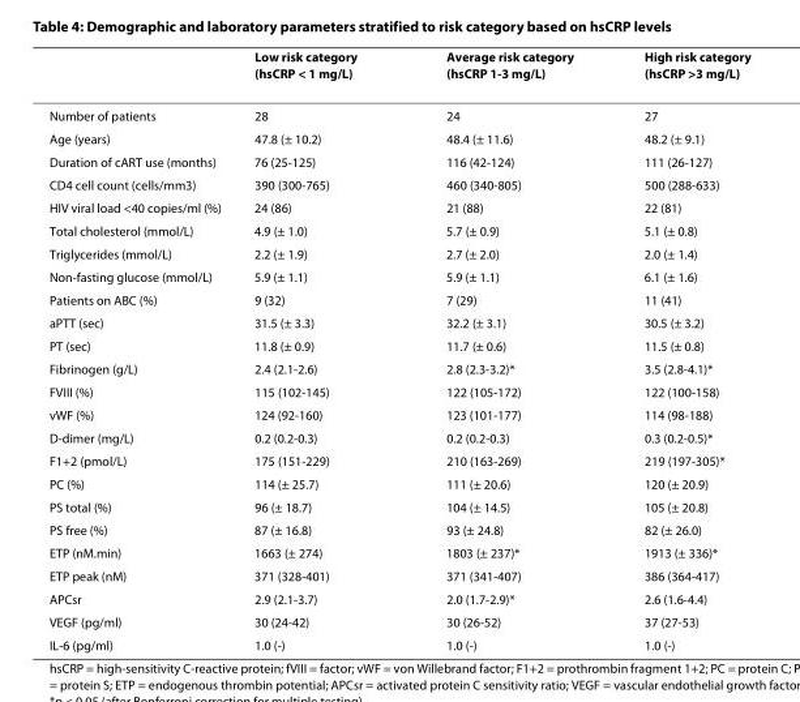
<table><thead><tr><td></td><td>Low risk category (hsCRP &lt; 1 mg/L)</td><td>Average risk category (hsCRP 1-3 mg/L)</td><td>High risk category (hsCRP &gt;3 mg/L)</td></tr></thead><tbody><tr><td>Number of patients</td><td>28</td><td>24</td><td>27</td></tr><tr><td>Age (years)</td><td>47.8 (± 10.2)</td><td>48.4 (± 11.6)</td><td>48.2 (± 9.1)</td></tr><tr><td>Duration of cART use (months)</td><td>76 (25-125)</td><td>116 (42-124)</td><td>111 (26-127)</td></tr><tr><td>CD4 cell count (cells/mm3)</td><td>390 (300-765)</td><td>460 (340-805)</td><td>500 (288-633)</td></tr><tr><td>HIV viral load &lt;40 copies/ml (%)</td><td>24 (86)</td><td>21 (88)</td><td>22 (81)</td></tr><tr><td>Total cholesterol (mmol/L)</td><td>4.9 (± 1.0)</td><td>5.7 (± 0.9)</td><td>5.1 (± 0.8)</td></tr><tr><td>Triglycerides (mmol/L)</td><td>2.2 (± 1.9)</td><td>2.7 (± 2.0)</td><td>2.0 (± 1.4)</td></tr><tr><td>Non-fasting glucose (mmol/L)</td><td>5.9 (± 1.1)</td><td>5.9 (± 1.1)</td><td>6.1 (± 1.6)</td></tr><tr><td>Patients on ABC (%)</td><td>9 (32)</td><td>7 (29)</td><td>11 (41)</td></tr><tr><td>aPTT (sec)</td><td>31.5 (± 3.3)</td><td>32.2 (± 3.1)</td><td>30.5 (± 3.2)</td></tr><tr><td>PT (sec)</td><td>11.8 (± 0.9)</td><td>11.7 (± 0.6)</td><td>11.5 (± 0.8)</td></tr><tr><td>Fibrinogen (g/L)</td><td>2.4 (2.1-2.6)</td><td>2.8 (2.3-3.2)*</td><td>3.5 (2.8-4.1)*</td></tr><tr><td>FVIII (%)</td><td>115 (102-145)</td><td>122 (105-172)</td><td>122 (100-158)</td></tr><tr><td>vWF (%)</td><td>124 (92-160)</td><td>123 (101-177)</td><td>114 (98-188)</td></tr><tr><td>D-dimer (mg/L)</td><td>0.2 (0.2-0.3)</td><td>0.2 (0.2-0.3)</td><td>0.3 (0.2-0.5)*</td></tr><tr><td>F1+2 (pmol/L)</td><td>175 (151-229)</td><td>210 (163-269)</td><td>219 (197-305)*</td></tr><tr><td>PC (%)</td><td>114 (± 25.7)</td><td>111 (± 20.6)</td><td>120 (± 20.9)</td></tr><tr><td>PS total (%)</td><td>96 (± 18.7)</td><td>104 (± 14.5)</td><td>105 (± 20.8)</td></tr><tr><td>PS free (%)</td><td>87 (± 16.8)</td><td>93 (± 24.8)</td><td>82 (± 26.0)</td></tr><tr><td>ETP (nM.min)</td><td>1663 (± 274)</td><td>1803 (± 237)*</td><td>1913 (± 336)*</td></tr><tr><td>ETP peak (nM)</td><td>371 (328-401)</td><td>371 (341-407)</td><td>386 (364-417)</td></tr><tr><td>APCsr</td><td>2.9 (2.1-3.7)</td><td>2.0 (1.7-2.9)*</td><td>2.6 (1.6-4.4)</td></tr><tr><td>VEGF (pg/ml)</td><td>30 (24-42)</td><td>30 (26-52)</td><td>37 (27-53)</td></tr><tr><td>IL-6 (pg/ml)</td><td>1.0 (-)</td><td>1.0 (-)</td><td>1.0 (-)</td></tr></tbody></table>